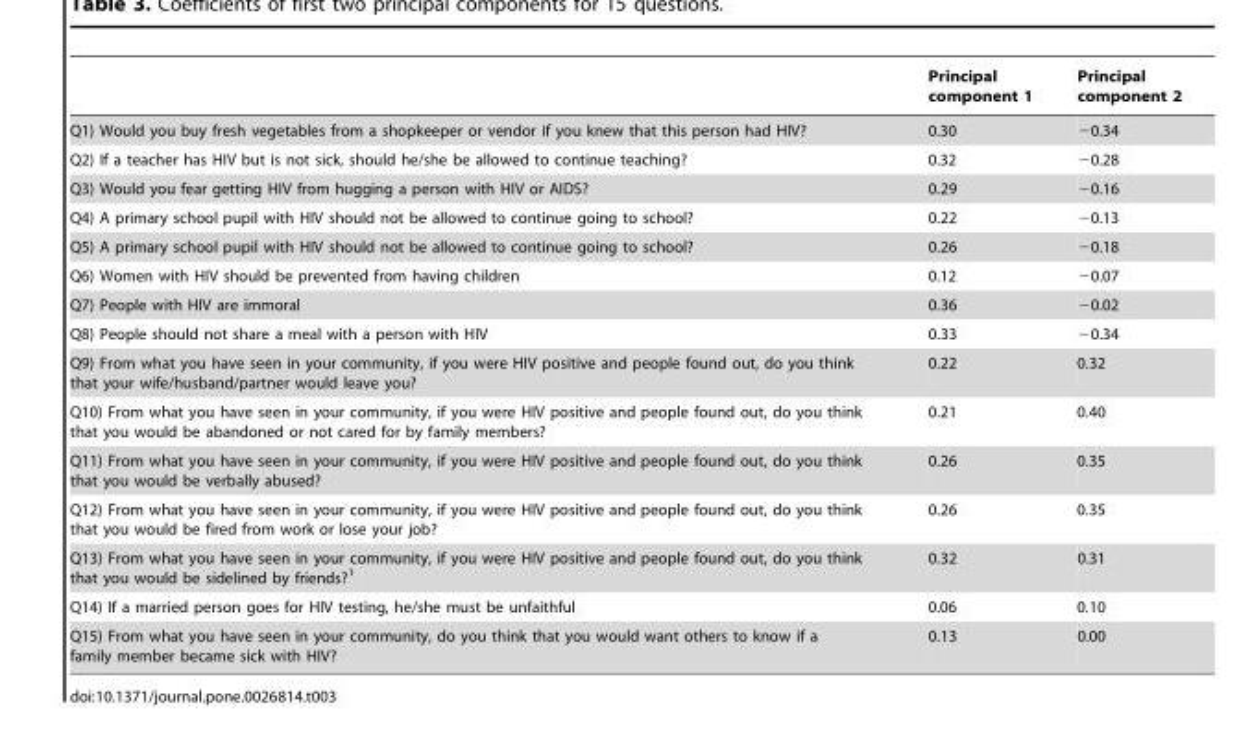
<table><thead><tr><td></td><td>Principal component 1</td><td>Principal component 2</td></tr></thead><tbody><tr><td>Q1) Would you buy fresh vegetables from a shopkeeper or vendor if you knew that this person had HIV?</td><td>0.30</td><td>−0.34</td></tr><tr><td>Q2) If a teacher has HIV but is not sick, should he/she be allowed to continue teaching?</td><td>0.32</td><td>−0.28</td></tr><tr><td>Q3) Would you fear getting HIV from hugging a person with HIV or AIDS?</td><td>0.29</td><td>−0.16</td></tr><tr><td>Q4) A primary school pupil with HIV should not be allowed to continue going to school?</td><td>0.22</td><td>−0.13</td></tr><tr><td>Q5) A primary school pupil with HIV should not be allowed to continue going to school?</td><td>0.26</td><td>−0.18</td></tr><tr><td>Q6) Women with HIV should be prevented from having children</td><td>0.12</td><td>−0.07</td></tr><tr><td>Q7) People with HIV are immoral</td><td>0.36</td><td>−0.02</td></tr><tr><td>Q8) People should not share a meal with a person with HIV</td><td>0.33</td><td>−0.34</td></tr><tr><td>Q9) From what you have seen in your community, if you were HIV positive and people found out, do you think that your wife/husband/partner would leave you?</td><td>0.22</td><td>0.32</td></tr><tr><td>Q10) From what you have seen in your community, if you were HIV positive and people found out, do you think that you would be abandoned or not cared for by family members?</td><td>0.21</td><td>0.40</td></tr><tr><td>Q11) From what you have seen in your community, if you were HIV positive and people found out, do you think that you would be verbally abused?</td><td>0.26</td><td>0.35</td></tr><tr><td>Q12) From what you have seen in your community, if you were HIV positive and people found out, do you think that you would be fired from work or lose your job?</td><td>0.26</td><td>0.35</td></tr><tr><td>Q13) From what you have seen in your community, if you were HIV positive and people found out, do you think that you would be sidelined by friends?<sup>1</sup></td><td>0.32</td><td>0.31</td></tr><tr><td>Q14) If a married person goes for HIV testing, he/she must be unfaithful</td><td>0.06</td><td>0.10</td></tr><tr><td>Q15) From what you have seen in your community, do you think that you would want others to know if a family member became sick with HIV?</td><td>0.13</td><td>0.00</td></tr></tbody></table>